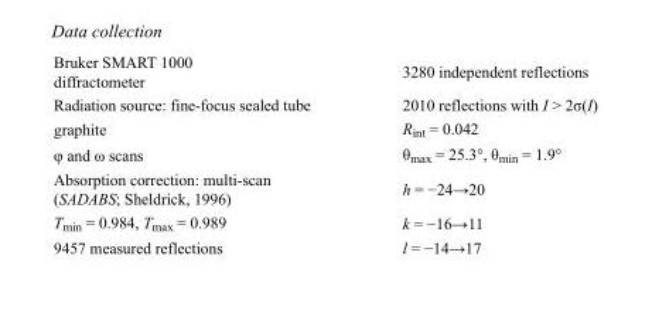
<table><tbody><tr><td>Bruker SMART 1000 diffractometer</td><td>3280 independent reflections</td></tr><tr><td>Radiation source: fine-focus sealed tube</td><td>2010 reflections with I &gt; 2σ(I)</td></tr><tr><td>graphite</td><td>R<sub>int</sub> = 0.042</td></tr><tr><td>φ and ω scans</td><td>θ<sub>max</sub> = 25.3°, θ<sub>min</sub> = 1.9°</td></tr><tr><td>Absorption correction: multi-scan (SADABS; Sheldrick, 1996)</td><td>h = −24→20</td></tr><tr><td>T<sub>min</sub> = 0.984, T<sub>max</sub> = 0.989</td><td>k = −16→11</td></tr><tr><td>9457 measured reflections</td><td>l = −14→17</td></tr></tbody></table>